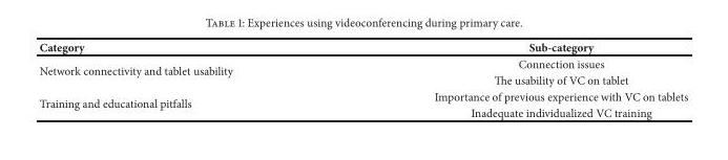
<table><thead><tr><td>Category</td><td>Sub-category</td></tr></thead><tbody><tr><td rowspan="2">Network connectivity and tablet usability</td><td>Connection issues</td></tr><tr><td>The usability of VC on tablet</td></tr><tr><td rowspan="2">Training and educational pitfalls</td><td>Importance of previous experience with VC on tablets</td></tr><tr><td>Inadequate individualized VC training</td></tr></tbody></table>